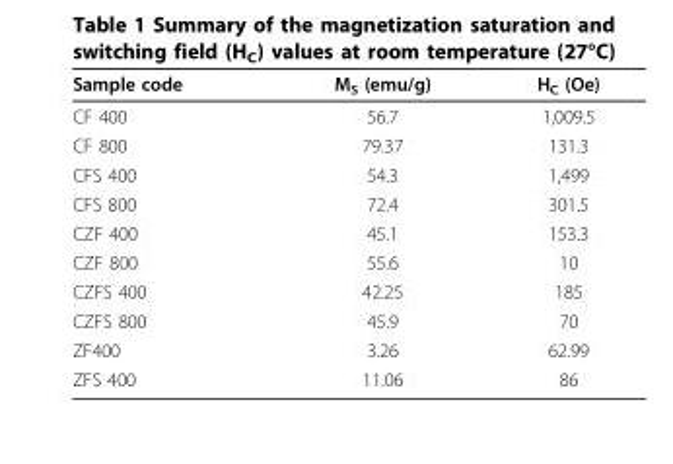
<table><thead><tr><td>Sample code</td><td>M<sub>S</sub> (emu/g)</td><td>H<sub>C</sub> (Oe)</td></tr></thead><tbody><tr><td>CF 400</td><td>56.7</td><td>1,009.5</td></tr><tr><td>CF 800</td><td>79.37</td><td>131.3</td></tr><tr><td>CFS 400</td><td>54.3</td><td>1,499</td></tr><tr><td>CFS 800</td><td>72.4</td><td>301.5</td></tr><tr><td>CZF 400</td><td>45.1</td><td>153.3</td></tr><tr><td>CZF 800</td><td>55.6</td><td>10</td></tr><tr><td>CZFS 400</td><td>42.25</td><td>185</td></tr><tr><td>CZFS 800</td><td>45.9</td><td>70</td></tr><tr><td>ZF400</td><td>3.26</td><td>62.99</td></tr><tr><td>ZFS 400</td><td>11.06</td><td>86</td></tr></tbody></table>